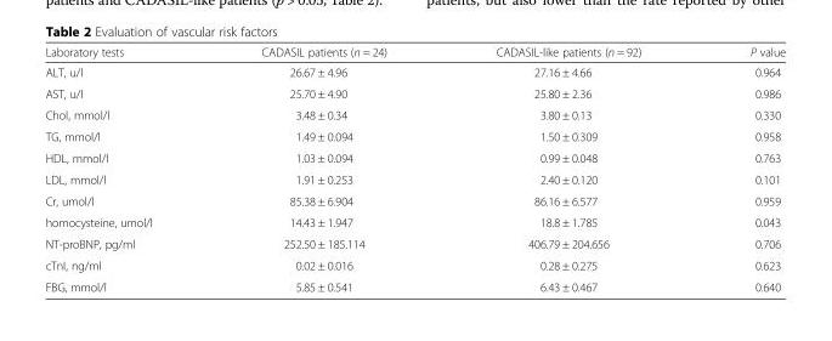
<table><thead><tr><td>Laboratory tests</td><td>CADASIL patients (n = 24)</td><td>CADASIL-like patients (n = 92)</td><td>P value</td></tr></thead><tbody><tr><td>ALT, u/l</td><td>26.67 ± 4.96</td><td>27.16 ± 4.66</td><td>0.964</td></tr><tr><td>AST, u/l</td><td>25.70 ± 4.90</td><td>25.80 ± 2.36</td><td>0.986</td></tr><tr><td>Chol, mmol/l</td><td>3.48 ± 0.34</td><td>3.80 ± 0.13</td><td>0.330</td></tr><tr><td>TG, mmol/l</td><td>1.49 ± 0.094</td><td>1.50 ± 0.309</td><td>0.958</td></tr><tr><td>HDL, mmol/l</td><td>1.03 ± 0.094</td><td>0.99 ± 0.048</td><td>0.763</td></tr><tr><td>LDL, mmol/l</td><td>1.91 ± 0.253</td><td>2.40 ± 0.120</td><td>0.101</td></tr><tr><td>Cr, umol/l</td><td>85.38 ± 6.904</td><td>86.16 ± 6.577</td><td>0.959</td></tr><tr><td>homocysteine, umol/l</td><td>14.43 ± 1.947</td><td>18.8 ± 1.785</td><td>0.043</td></tr><tr><td>NT-proBNP, pg/ml</td><td>252.50 ± 185.114</td><td>406.79 ± 204.656</td><td>0.706</td></tr><tr><td>cTnI, ng/ml</td><td>0.02 ± 0.016</td><td>0.28 ± 0.275</td><td>0.623</td></tr><tr><td>FBG, mmol/l</td><td>5.85 ± 0.541</td><td>6.43 ± 0.467</td><td>0.640</td></tr></tbody></table>